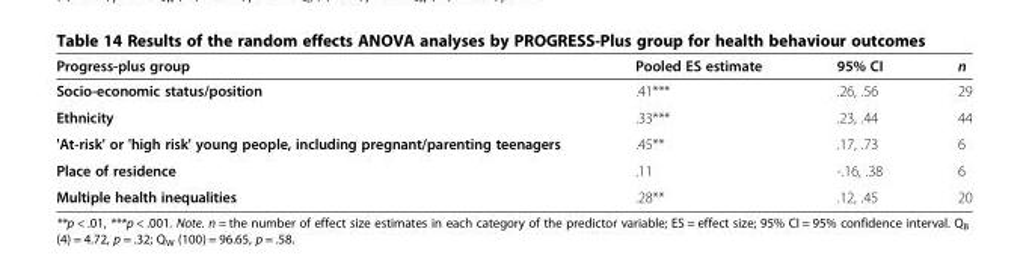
<table><thead><tr><td>Progress-plus group</td><td>Pooled ES estimate</td><td>95% CI</td><td>n</td></tr></thead><tbody><tr><td>Socio-economic status/position</td><td>.41***</td><td>.26, .56</td><td>29</td></tr><tr><td>Ethnicity</td><td>.33***</td><td>.23, .44</td><td>44</td></tr><tr><td>&#x27;At-risk&#x27; or &#x27;high risk&#x27; young people, including pregnant/parenting teenagers</td><td>.45**</td><td>.17, .73</td><td>6</td></tr><tr><td>Place of residence</td><td>.11</td><td>-.16, .38</td><td>6</td></tr><tr><td>Multiple health inequalities</td><td>.28**</td><td>.12, .45</td><td>20</td></tr></tbody></table>